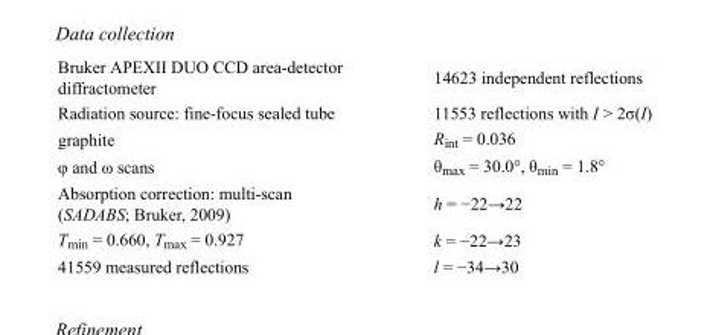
<table><tbody><tr><td>Bruker APEXII DUO CCD area-detector diffractometer</td><td>14623 independent reflections</td></tr><tr><td>Radiation source: fine-focus sealed tube</td><td>11553 reflections with I &gt; 2σ(I)</td></tr><tr><td>graphite</td><td>R<sub>int</sub> = 0.036</td></tr><tr><td>φ and ω scans</td><td>θ<sub>max</sub> = 30.0°, θ<sub>min</sub> = 1.8°</td></tr><tr><td>Absorption correction: multi-scan (SADABS; Bruker, 2009)</td><td>h = −22→22</td></tr><tr><td>T<sub>min</sub> = 0.660, T<sub>max</sub> = 0.927</td><td>k = −22→23</td></tr><tr><td>41559 measured reflections</td><td>l = −34→30</td></tr></tbody></table>